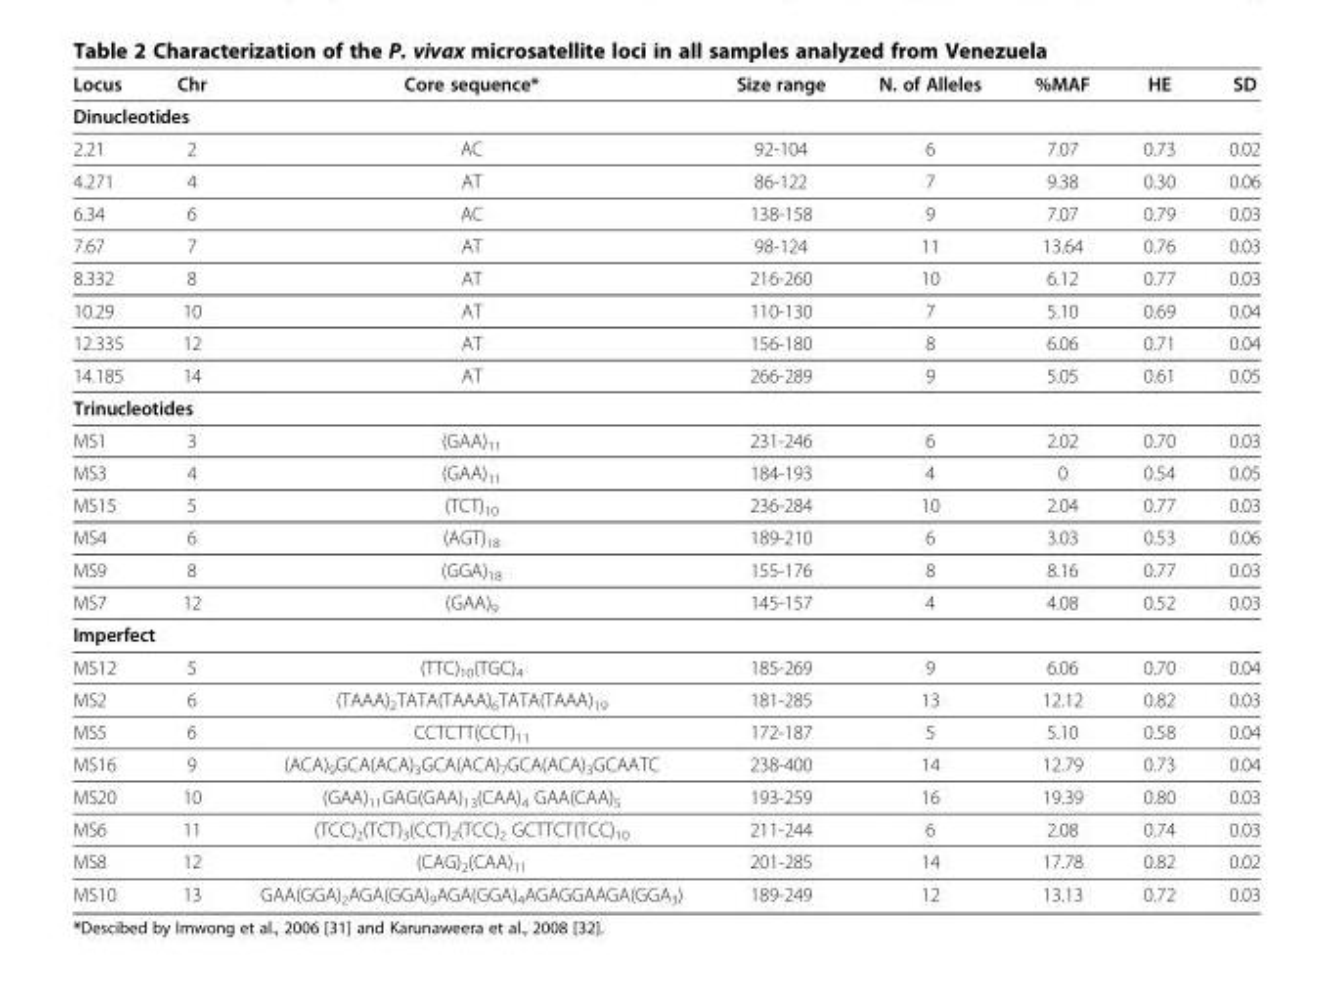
<table><thead><tr><td>Locus</td><td>Chr</td><td>Core sequence*</td><td>Size range</td><td>N. of Alleles</td><td>%MAF</td><td>HE</td><td>SD</td></tr></thead><tbody><tr><td colspan="8">Dinucleotides</td></tr><tr><td>2.21</td><td>2</td><td>AC</td><td>92-104</td><td>6</td><td>7.07</td><td>0.73</td><td>0.02</td></tr><tr><td>4.271</td><td>4</td><td>AT</td><td>86-122</td><td>7</td><td>9.38</td><td>0.30</td><td>0.06</td></tr><tr><td>6.34</td><td>6</td><td>AC</td><td>138-158</td><td>9</td><td>7.07</td><td>0.79</td><td>0.03</td></tr><tr><td>7.67</td><td>7</td><td>AT</td><td>98-124</td><td>11</td><td>13.64</td><td>0.76</td><td>0.03</td></tr><tr><td>8.332</td><td>8</td><td>AT</td><td>216-260</td><td>10</td><td>6.12</td><td>0.77</td><td>0.03</td></tr><tr><td>10.29</td><td>10</td><td>AT</td><td>110-130</td><td>7</td><td>5.10</td><td>0.69</td><td>0.04</td></tr><tr><td>12.335</td><td>12</td><td>AT</td><td>156-180</td><td>8</td><td>6.06</td><td>0.71</td><td>0.04</td></tr><tr><td>14.185</td><td>14</td><td>AT</td><td>266-289</td><td>9</td><td>5.05</td><td>0.61</td><td>0.05</td></tr><tr><td colspan="8">Trinucleotides</td></tr><tr><td>MS1</td><td>3</td><td>(GAA)<sub>11</sub></td><td>231-246</td><td>6</td><td>2.02</td><td>0.70</td><td>0.03</td></tr><tr><td>MS3</td><td>4</td><td>(GAA)<sub>11</sub></td><td>184-193</td><td>4</td><td>0</td><td>0.54</td><td>0.05</td></tr><tr><td>MS15</td><td>5</td><td>(TCT)<sub>10</sub></td><td>236-284</td><td>10</td><td>2.04</td><td>0.77</td><td>0.03</td></tr><tr><td>MS4</td><td>6</td><td>(AGT)<sub>18</sub></td><td>189-210</td><td>6</td><td>3.03</td><td>0.53</td><td>0.06</td></tr><tr><td>MS9</td><td>8</td><td>(GGA)<sub>18</sub></td><td>155-176</td><td>8</td><td>8.16</td><td>0.77</td><td>0.03</td></tr><tr><td>MS7</td><td>12</td><td>(GAA)<sub>9</sub></td><td>145-157</td><td>4</td><td>4.08</td><td>0.52</td><td>0.03</td></tr><tr><td colspan="8">Imperfect</td></tr><tr><td>MS12</td><td>5</td><td>(TTC)<sub>10</sub>(TGC)<sub>4</sub></td><td>185-269</td><td>9</td><td>6.06</td><td>0.70</td><td>0.04</td></tr><tr><td>MS2</td><td>6</td><td>(TAAA)<sub>2</sub>TATA(TAAA)<sub>6</sub>TATA(TAAA)<sub>19</sub></td><td>181-285</td><td>13</td><td>12.12</td><td>0.82</td><td>0.03</td></tr><tr><td>MS5</td><td>6</td><td>CCTCTT(CCT)<sub>11</sub></td><td>172-187</td><td>5</td><td>5.10</td><td>0.58</td><td>0.04</td></tr><tr><td>MS16</td><td>9</td><td>(ACA)<sub>9</sub>GCA(ACA)<sub>3</sub>GCA(ACA)<sub>7</sub>GCA(ACA)<sub>3</sub>GCAATC</td><td>238-400</td><td>14</td><td>12.79</td><td>0.73</td><td>0.04</td></tr><tr><td>MS20</td><td>10</td><td>(GAA)<sub>11</sub>GAG(GAA)<sub>13</sub>(CAA)<sub>4</sub> GAA(CAA)<sub>5</sub></td><td>193-259</td><td>16</td><td>19.39</td><td>0.80</td><td>0.03</td></tr><tr><td>MS6</td><td>11</td><td>(TCC)<sub>2</sub>(TCT)<sub>3</sub>(CCT)<sub>2</sub>(TCC)<sub>2</sub> GCTTCT(TCC)<sub>10</sub></td><td>211-244</td><td>6</td><td>2.08</td><td>0.74</td><td>0.03</td></tr><tr><td>MS8</td><td>12</td><td>(CAG)<sub>2</sub>(CAA)<sub>11</sub></td><td>201-285</td><td>14</td><td>17.78</td><td>0.82</td><td>0.02</td></tr><tr><td>MS10</td><td>13</td><td>GAA(GGA)<sub>2</sub>AGA(GGA)<sub>9</sub>AGA(GGA)<sub>4</sub>AGAGGAAGA(GGA<sub>3</sub>)</td><td>189-249</td><td>12</td><td>13.13</td><td>0.72</td><td>0.03</td></tr></tbody></table>